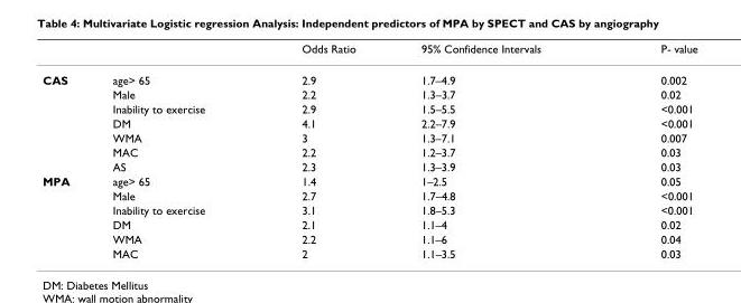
<table><thead><tr><td></td><td></td><td>Odds Ratio</td><td>95% Confidence Intervals</td><td>P- value</td></tr></thead><tbody><tr><td rowspan="7">CAS</td><td>age&gt; 65</td><td>2.9</td><td>1.7–4.9</td><td>0.002</td></tr><tr><td>Male</td><td>2.2</td><td>1.3–3.7</td><td>0.02</td></tr><tr><td>Inability to exercise</td><td>2.9</td><td>1.5–5.5</td><td>&lt;0.001</td></tr><tr><td>DM</td><td>4.1</td><td>2.2–7.9</td><td>&lt;0.001</td></tr><tr><td>WMA</td><td>3</td><td>1.3–7.1</td><td>0.007</td></tr><tr><td>MAC</td><td>2.2</td><td>1.2–3.7</td><td>0.03</td></tr><tr><td>AS</td><td>2.3</td><td>1.3–3.9</td><td>0.03</td></tr><tr><td rowspan="6">MPA</td><td>age&gt; 65</td><td>1.4</td><td>1–2.5</td><td>0.05</td></tr><tr><td>Male</td><td>2.7</td><td>1.7–4.8</td><td>&lt;0.001</td></tr><tr><td>Inability to exercise</td><td>3.1</td><td>1.8–5.3</td><td>&lt;0.001</td></tr><tr><td>DM</td><td>2.1</td><td>1.1–4</td><td>0.02</td></tr><tr><td>WMA</td><td>2.2</td><td>1.1–6</td><td>0.04</td></tr><tr><td>MAC</td><td>2</td><td>1.1–3.5</td><td>0.03</td></tr></tbody></table>